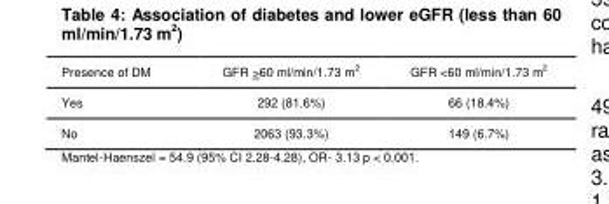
<table><thead><tr><td>Presence of DM</td><td>GFR &gt;60 ml/min/1.73 m2</td><td>GFR &lt;60 ml/min/1.73 m<sup>2</sup></td></tr></thead><tbody><tr><td>Yes</td><td>292 (81.6%)</td><td>66 (18.4%)</td></tr><tr><td>No</td><td>2063 (93.3%)</td><td>149 (6.7%)</td></tr></tbody></table>